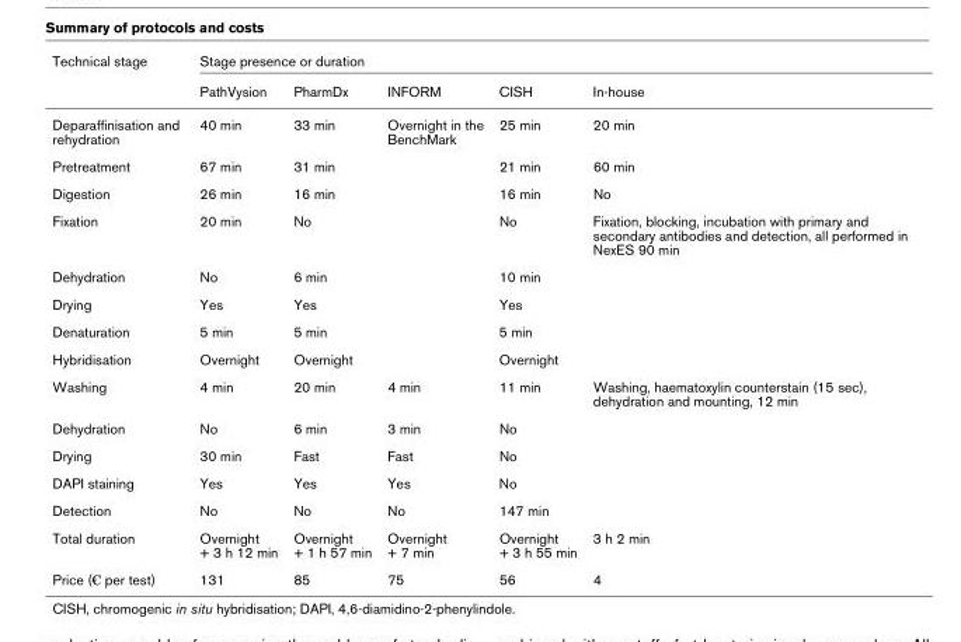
<table><thead><tr><td rowspan="2">Technical stage</td><td colspan="5">Stage presence or duration</td></tr><tr><td>PathVysion</td><td>PharmDx</td><td>INFORM</td><td>CISH</td><td>In-house</td></tr></thead><tbody><tr><td>Deparaffinisation and rehydration</td><td>40 min</td><td>33 min</td><td>Overnight in the BenchMark</td><td>25 min</td><td>20 min</td></tr><tr><td>Pretreatment</td><td>67 min</td><td>31 min</td><td></td><td>21 min</td><td>60 min</td></tr><tr><td>Digestion</td><td>26 min</td><td>16 min</td><td></td><td>16 min</td><td>No</td></tr><tr><td>Fixation</td><td>20 min</td><td>No</td><td></td><td>No</td><td>Fixation, blocking, incubation with primary and secondary antibodies and detection, all performed in NexES 90 min</td></tr><tr><td>Dehydration</td><td>No</td><td>6 min</td><td></td><td>10 min</td><td></td></tr><tr><td>Drying</td><td>Yes</td><td>Yes</td><td></td><td>Yes</td><td></td></tr><tr><td>Denaturation</td><td>5 min</td><td>5 min</td><td></td><td>5 min</td><td></td></tr><tr><td>Hybridisation</td><td>Overnight</td><td>Overnight</td><td></td><td>Overnight</td><td></td></tr><tr><td>Washing</td><td>4 min</td><td>20 min</td><td>4 min</td><td>11 min</td><td>Washing, haematoxylin counterstain (15 sec), dehydration and mounting, 12 min</td></tr><tr><td>Dehydration</td><td>No</td><td>6 min</td><td>3 min</td><td>No</td><td></td></tr><tr><td>Drying</td><td>30 min</td><td>Fast</td><td>Fast</td><td>No</td><td></td></tr><tr><td>DAPI staining</td><td>Yes</td><td>Yes</td><td>Yes</td><td>No</td><td></td></tr><tr><td>Detection</td><td>No</td><td>No</td><td>No</td><td>147 min</td><td></td></tr><tr><td>Total duration</td><td>Overnight + 3 h 12 min</td><td>Overnight + 1 h 57 min</td><td>Overnight + 7 min</td><td>Overnight + 3 h 55 min</td><td>3 h 2 min</td></tr><tr><td>Price (€ per test)</td><td>131</td><td>85</td><td>75</td><td>56</td><td>4</td></tr></tbody></table>